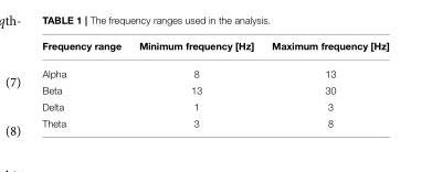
<table><thead><tr><td>Frequency range</td><td>Minimum frequency [Hz]</td><td>Maximum frequency [Hz]</td></tr></thead><tbody><tr><td>Alpha</td><td>8</td><td>13</td></tr><tr><td>Beta</td><td>13</td><td>30</td></tr><tr><td>Delta</td><td>1</td><td>3</td></tr><tr><td>Theta</td><td>3</td><td>8</td></tr></tbody></table>